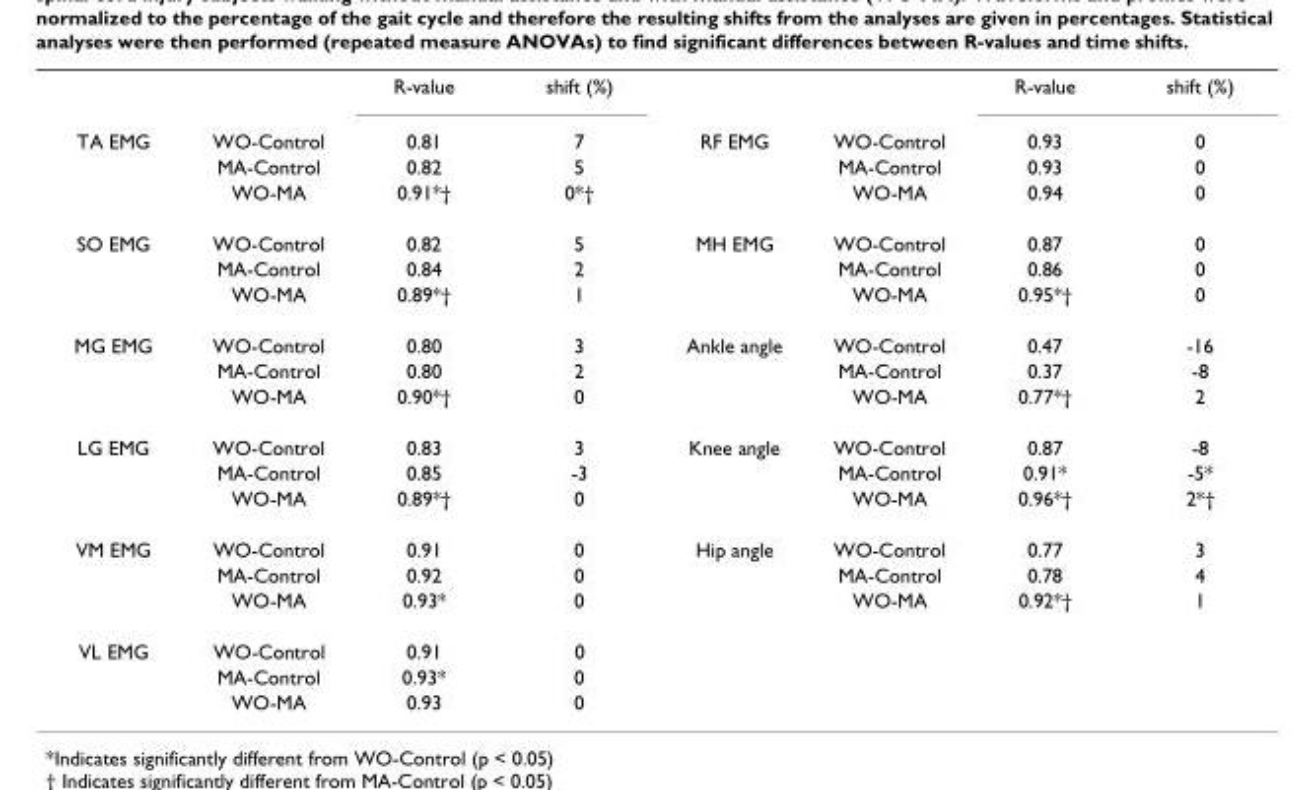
<table><thead><tr><td></td><td></td><td>R-value</td><td>shift (%)</td><td></td><td></td><td>R-value</td><td>shift (%)</td></tr></thead><tbody><tr><td rowspan="3">TA EMG</td><td>WO-Control</td><td>0.81</td><td>7</td><td>RF EMG</td><td>WO-Control</td><td>0.93</td><td>0</td></tr><tr><td>MA-Control</td><td>0.82</td><td>5</td><td></td><td>MA-Control</td><td>0.93</td><td>0</td></tr><tr><td>WO-MA</td><td>0.91*†</td><td>0*†</td><td></td><td>WO-MA</td><td>0.94</td><td>0</td></tr><tr><td rowspan="3">SO EMG</td><td>WO-Control</td><td>0.82</td><td>5</td><td>MH EMG</td><td>WO-Control</td><td>0.87</td><td>0</td></tr><tr><td>MA-Control</td><td>0.84</td><td>2</td><td></td><td>MA-Control</td><td>0.86</td><td>0</td></tr><tr><td>WO-MA</td><td>0.89*†</td><td>1</td><td></td><td>WO-MA</td><td>0.95*†</td><td>0</td></tr><tr><td rowspan="3">MG EMG</td><td>WO-Control</td><td>0.80</td><td>3</td><td>Ankle angle</td><td>WO-Control</td><td>0.47</td><td>-16</td></tr><tr><td>MA-Control</td><td>0.80</td><td>2</td><td></td><td>MA-Control</td><td>0.37</td><td>-8</td></tr><tr><td>WO-MA</td><td>0.90*†</td><td>0</td><td></td><td>WO-MA</td><td>0.77*†</td><td>2</td></tr><tr><td rowspan="3">LG EMG</td><td>WO-Control</td><td>0.83</td><td>3</td><td>Knee angle</td><td>WO-Control</td><td>0.87</td><td>-8</td></tr><tr><td>MA-Control</td><td>0.85</td><td>-3</td><td></td><td>MA-Control</td><td>0.91*</td><td>-5*</td></tr><tr><td>WO-MA</td><td>0.89*†</td><td>0</td><td></td><td>WO-MA</td><td>0.96*†</td><td>2*†</td></tr><tr><td rowspan="3">VM EMG</td><td>WO-Control</td><td>0.91</td><td>0</td><td>Hip angle</td><td>WO-Control</td><td>0.77</td><td>3</td></tr><tr><td>MA-Control</td><td>0.92</td><td>0</td><td></td><td>MA-Control</td><td>0.78</td><td>4</td></tr><tr><td>WO-MA</td><td>0.93*</td><td>0</td><td></td><td>WO-MA</td><td>0.92*†</td><td>1</td></tr><tr><td rowspan="3">VL EMG</td><td>WO-Control</td><td>0.91</td><td>0</td><td></td><td></td><td></td><td></td></tr><tr><td>MA-Control</td><td>0.93*</td><td>0</td><td></td><td></td><td></td><td></td></tr><tr><td>WO-MA</td><td>0.93</td><td>0</td><td></td><td></td><td></td><td></td></tr></tbody></table>